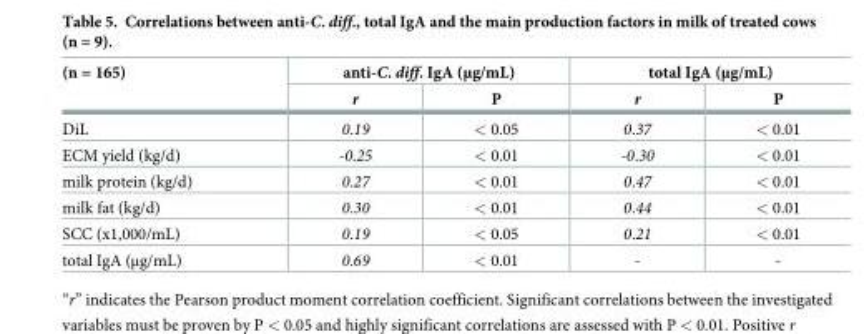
<table><thead><tr><td rowspan="2">(n = 165)</td><td colspan="2">anti-C. diff. IgA (μg/mL)</td><td colspan="2">total IgA (μg/mL)</td></tr><tr><td>r</td><td>P</td><td>r</td><td>P</td></tr></thead><tbody><tr><td>DiL</td><td>0.19</td><td>&lt; 0.05</td><td>0.37</td><td>&lt; 0.01</td></tr><tr><td>ECM yield (kg/d)</td><td>-0.25</td><td>&lt; 0.01</td><td>-0.30</td><td>&lt; 0.01</td></tr><tr><td>milk protein (kg/d)</td><td>0.27</td><td>&lt; 0.01</td><td>0.47</td><td>&lt; 0.01</td></tr><tr><td>milk fat (kg/d)</td><td>0.30</td><td>&lt; 0.01</td><td>0.44</td><td>&lt; 0.01</td></tr><tr><td>SCC (x1,000/mL)</td><td>0.19</td><td>&lt; 0.05</td><td>0.21</td><td>&lt; 0.01</td></tr><tr><td>total IgA (μg/mL)</td><td>0.69</td><td>&lt; 0.01</td><td>-</td><td>-</td></tr></tbody></table>